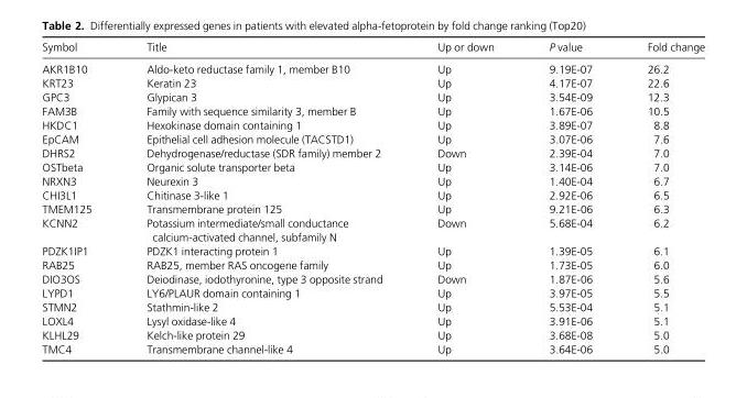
<table><thead><tr><td>Symbol</td><td>Title</td><td>Up or down</td><td>P value</td><td>Fold change</td></tr></thead><tbody><tr><td>AKR1B10</td><td>Aldo-keto reductase family 1, member B10</td><td>Up</td><td>9.19E-07</td><td>26.2</td></tr><tr><td>KRT23</td><td>Keratin 23</td><td>Up</td><td>4.17E-07</td><td>22.6</td></tr><tr><td>GPC3</td><td>Glypican 3</td><td>Up</td><td>3.54E-09</td><td>12.3</td></tr><tr><td>FAM3B</td><td>Family with sequence similarity 3, member B</td><td>Up</td><td>1.67E-06</td><td>10.5</td></tr><tr><td>HKDC1</td><td>Hexokinase domain containing 1</td><td>Up</td><td>3.89E-07</td><td>8.8</td></tr><tr><td>EpCAM</td><td>Epithelial cell adhesion molecule (TACSTD1)</td><td>Up</td><td>3.07E-06</td><td>7.6</td></tr><tr><td>DHRS2</td><td>Dehydrogenase/reductase (SDR family) member 2</td><td>Down</td><td>2.39E-04</td><td>7.0</td></tr><tr><td>OSTbeta</td><td>Organic solute transporter beta</td><td>Up</td><td>3.14E-06</td><td>7.0</td></tr><tr><td>NRXN3</td><td>Neurexin 3</td><td>Up</td><td>1.40E-04</td><td>6.7</td></tr><tr><td>CHI3L1</td><td>Chitinase 3-like 1</td><td>Up</td><td>2.92E-06</td><td>6.5</td></tr><tr><td>TMEM125</td><td>Transmembrane protein 125</td><td>Up</td><td>9.21E-06</td><td>6.3</td></tr><tr><td>KCNN2</td><td>Potassium intermediate/small conductance calcium-activated channel, subfamily N</td><td>Down</td><td>5.68E-04</td><td>6.2</td></tr><tr><td>PDZK1IP1</td><td>PDZK1 interacting protein 1</td><td>Up</td><td>1.39E-05</td><td>6.1</td></tr><tr><td>RAB25</td><td>RAB25, member RAS oncogene family</td><td>Up</td><td>1.73E-05</td><td>6.0</td></tr><tr><td>DIO3OS</td><td>Deiodinase, iodothyronine, type 3 opposite strand</td><td>Down</td><td>1.87E-06</td><td>5.6</td></tr><tr><td>LYPD1</td><td>LY6/PLAUR domain containing 1</td><td>Up</td><td>3.97E-05</td><td>5.5</td></tr><tr><td>STMN2</td><td>Stathmin-like 2</td><td>Up</td><td>5.53E-04</td><td>5.1</td></tr><tr><td>LOXL4</td><td>Lysyl oxidase-like 4</td><td>Up</td><td>3.91E-06</td><td>5.1</td></tr><tr><td>KLHL29</td><td>Kelch-like protein 29</td><td>Up</td><td>3.68E-08</td><td>5.0</td></tr><tr><td>TMC4</td><td>Transmembrane channel-like 4</td><td>Up</td><td>3.64E-06</td><td>5.0</td></tr></tbody></table>